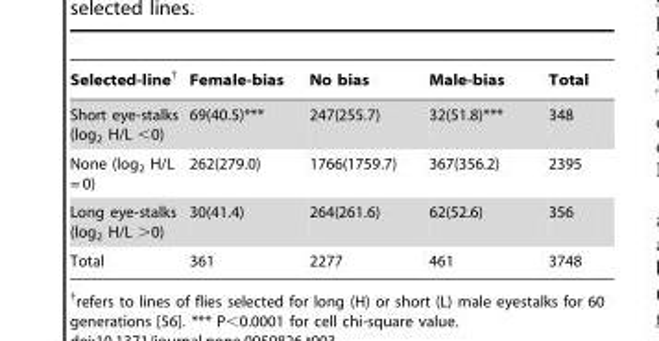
<table><thead><tr><td>Selected-line†</td><td>Female-bias</td><td>No bias</td><td>Male-bias</td><td>Total</td></tr></thead><tbody><tr><td>Short eye-stalks (log<sub>2</sub> H/L &lt;0)</td><td>69(40.5)***</td><td>247(255.7)</td><td>32(51.8)***</td><td>348</td></tr><tr><td>None (log<sub>2</sub> H/L = 0)</td><td>262(279.0)</td><td>1766(1759.7)</td><td>367(356.2)</td><td>2395</td></tr><tr><td>Long eye-stalks (log<sub>2</sub> H/L &gt;0)</td><td>30(41.4)</td><td>264(261.6)</td><td>62(52.6)</td><td>356</td></tr><tr><td>Total</td><td>361</td><td>2277</td><td>461</td><td>3748</td></tr></tbody></table>